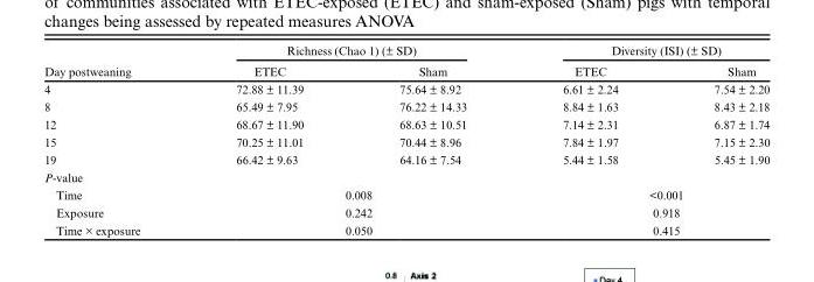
<table><thead><tr><td rowspan="2">Day postweaning</td><td colspan="2">Richness (Chao 1) (± SD)</td><td colspan="2">Diversity (ISI) (± SD)</td></tr><tr><td>ETEC</td><td>Sham</td><td>ETEC</td><td>Sham</td></tr></thead><tbody><tr><td>4</td><td>72.88 ± 11.39</td><td>75.64 ± 8.92</td><td>6.61 ± 2.24</td><td>7.54 ± 2.20</td></tr><tr><td>8</td><td>65.49 ± 7.95</td><td>76.22 ± 14.33</td><td>8.84 ± 1.63</td><td>8.43 ± 2.18</td></tr><tr><td>12</td><td>68.67 ± 11.90</td><td>68.63 ± 10.51</td><td>7.14 ± 2.31</td><td>6.87 ± 1.74</td></tr><tr><td>15</td><td>70.25 ± 11.01</td><td>70.44 ± 8.96</td><td>7.84 ± 1.97</td><td>7.15 ± 2.30</td></tr><tr><td>19</td><td>66.42 ± 9.63</td><td>64.16 ± 7.54</td><td>5.44 ± 1.58</td><td>5.45 ± 1.90</td></tr><tr><td colspan="5">P-value</td></tr><tr><td>Time</td><td colspan="2">0.008</td><td colspan="2">&lt;0.001</td></tr><tr><td>Exposure</td><td colspan="2">0.242</td><td colspan="2">0.918</td></tr><tr><td>Time × exposure</td><td colspan="2">0.050</td><td colspan="2">0.415</td></tr></tbody></table>